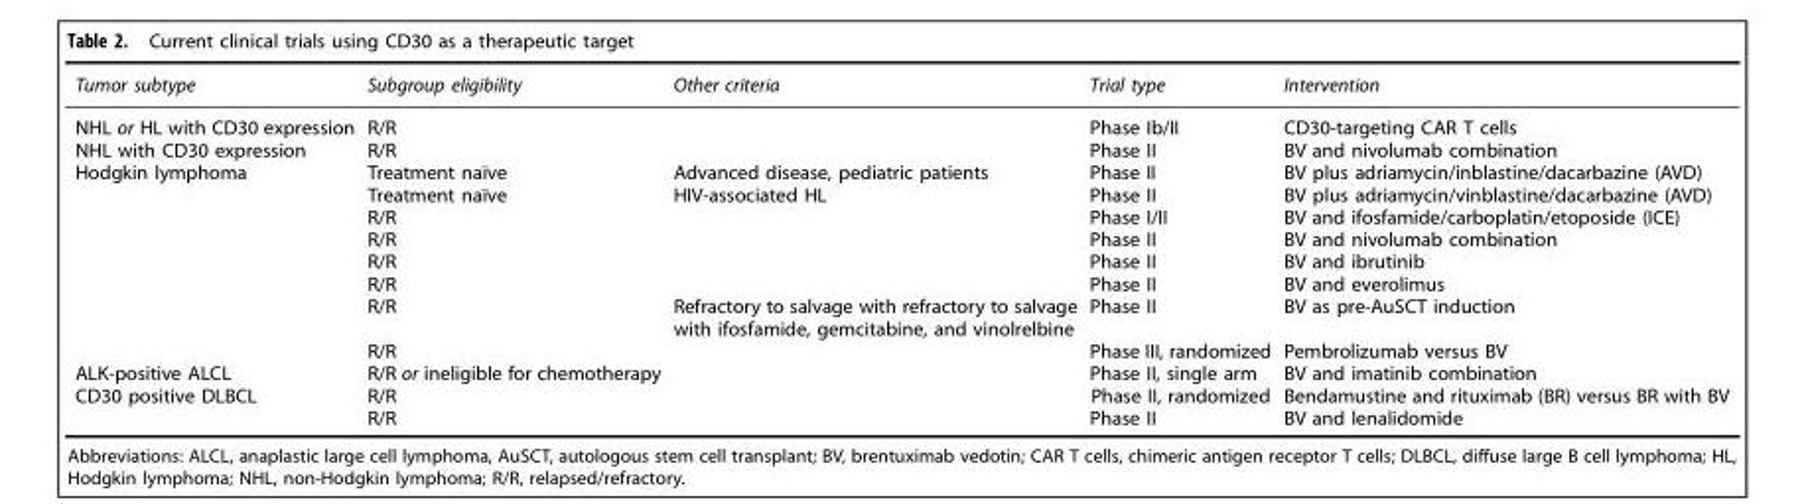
<table><thead><tr><td>Tumor subtype</td><td>Subgroup eligibility</td><td>Other criteria</td><td>Trial type</td><td>Intervention</td></tr></thead><tbody><tr><td>NHL or HL with CD30 expression</td><td>R/R</td><td></td><td>Phase Ib/II</td><td>CD30-targeting CAR T cells</td></tr><tr><td>NHL with CD30 expression</td><td>R/R</td><td></td><td>Phase II</td><td>BV and nivolumab combination</td></tr><tr><td rowspan="8">Hodgkin lymphoma</td><td>Treatment naïve</td><td>Advanced disease, pediatric patients</td><td>Phase II</td><td>BV plus adriamycin/inblastine/dacarbazine (AVD)</td></tr><tr><td>Treatment naïve</td><td>HIV-associated HL</td><td>Phase II</td><td>BV plus adriamycin/vinblastine/dacarbazine (AVD)</td></tr><tr><td>R/R</td><td></td><td>Phase I/II</td><td>BV and ifosfamide/carboplatin/etoposide (ICE)</td></tr><tr><td>R/R</td><td></td><td>Phase II</td><td>BV and nivolumab combination</td></tr><tr><td>R/R</td><td></td><td>Phase II</td><td>BV and ibrutinib</td></tr><tr><td>R/R</td><td></td><td>Phase II</td><td>BV and everolimus</td></tr><tr><td>R/R</td><td>Refractory to salvage with refractory to salvage with ifosfamide, gemcitabine, and vinolrelbine</td><td>Phase II</td><td>BV as pre-AuSCT induction</td></tr><tr><td>R/R</td><td></td><td>Phase III, randomized</td><td>Pembrolizumab versus BV</td></tr><tr><td>ALK-positive ALCL</td><td>R/R or ineligible for chemotherapy</td><td></td><td>Phase II, single arm</td><td>BV and imatinib combination</td></tr><tr><td rowspan="2">CD30 positive DLBCL</td><td>R/R</td><td></td><td>Phase II, randomized</td><td>Bendamustine and rituximab (BR) versus BR with BV</td></tr><tr><td>R/R</td><td></td><td>Phase II</td><td>BV and lenalidomide</td></tr></tbody></table>